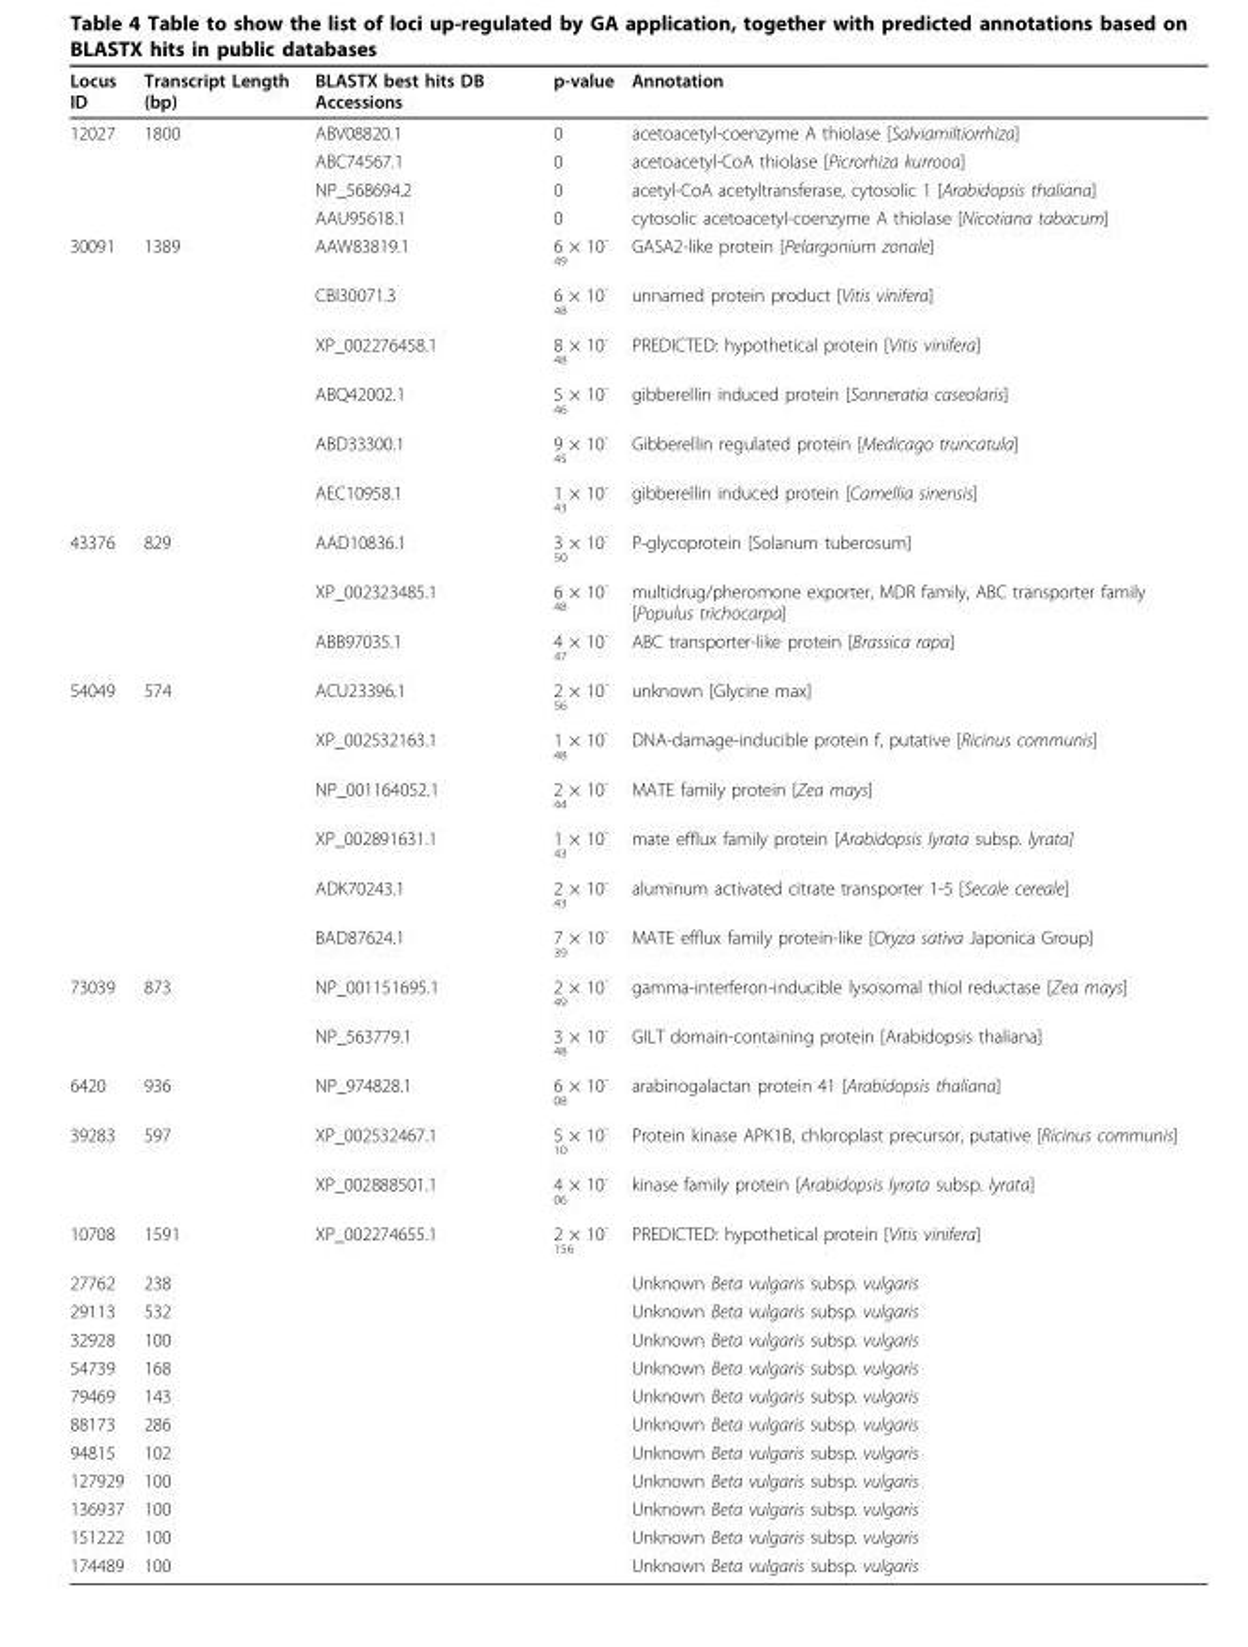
<table><thead><tr><td>Locus ID</td><td>Transcript Length (bp)</td><td>BLASTX best hits DB Accessions</td><td>p-value</td><td>Annotation</td></tr></thead><tbody><tr><td rowspan="4">12027</td><td>1800</td><td>ABV08820.1</td><td>0</td><td>acetoacetyl-coenzyme A thiolase [Salviamiltiorrhiza]</td></tr><tr><td></td><td>ABC74567.1</td><td>0</td><td>acetoacetyl-CoA thiolase [Picrorhiza kurrooa]</td></tr><tr><td></td><td>NP_568694.2</td><td>0</td><td>acetyl-CoA acetyltransferase, cytosolic 1 [Arabidopsis thaliana]</td></tr><tr><td></td><td>AAU95618.1</td><td>0</td><td>cytosolic acetoacetyl-coenzyme A thiolase [Nicotiana tabacum]</td></tr><tr><td rowspan="6">30091</td><td>1389</td><td>AAW83819.1</td><td>6 × 10<sup>- 49</sup></td><td>GASA2-like protein [Pelargonium zonale]</td></tr><tr><td></td><td>CBI30071.3</td><td>6 × 10<sup>- 48</sup></td><td>unnamed protein product [Vitis vinifera]</td></tr><tr><td></td><td>XP_002276458.1</td><td>8 × 10<sup>- 48</sup></td><td>PREDICTED: hypothetical protein [Vitis vinifera]</td></tr><tr><td></td><td>ABQ42002.1</td><td>5 × 10<sup>- 46</sup></td><td>gibberellin induced protein [Sonneratia caseolaris]</td></tr><tr><td></td><td>ABD33300.1</td><td>9 × 10<sup>- 45</sup></td><td>Gibberellin regulated protein [Medicago truncatula]</td></tr><tr><td></td><td>AEC10958.1</td><td>1 × 10<sup>- 43</sup></td><td>gibberellin induced protein [Camellia sinensis]</td></tr><tr><td rowspan="3">43376</td><td>829</td><td>AAD10836.1</td><td>3 × 10<sup>- 50</sup></td><td>P-glycoprotein [Solanum tuberosum]</td></tr><tr><td></td><td>XP_002323485.1</td><td>6 × 10<sup>- 48</sup></td><td>multidrug/pheromone exporter, MDR family, ABC transporter family [Populus trichocarpa]</td></tr><tr><td></td><td>ABB97035.1</td><td>4 × 10<sup>- 47</sup></td><td>ABC transporter-like protein [Brassica rapa]</td></tr><tr><td rowspan="6">54049</td><td>574</td><td>ACU23396.1</td><td>2 × 10<sup>- 56</sup></td><td>unknown [Glycine max]</td></tr><tr><td></td><td>XP_002532163.1</td><td>1 × 10<sup>- 48</sup></td><td>DNA-damage-inducible protein f, putative [Ricinus communis]</td></tr><tr><td></td><td>NP_001164052.1</td><td>2 × 10<sup>- 44</sup></td><td>MATE family protein [Zea mays]</td></tr><tr><td></td><td>XP_002891631.1</td><td>1 × 10<sup>- 43</sup></td><td>mate efflux family protein [Arabidopsis lyrata subsp. lyrata]</td></tr><tr><td></td><td>ADK70243.1</td><td>2 × 10<sup>- 43</sup></td><td>aluminum activated citrate transporter 1-5 [Secale cereale]</td></tr><tr><td></td><td>BAD87624.1</td><td>7 × 10<sup>- 39</sup></td><td>MATE efflux family protein-like [Oryza sativa Japonica Group]</td></tr><tr><td rowspan="2">73039</td><td>873</td><td>NP_001151695.1</td><td>2 × 10<sup>- 49</sup></td><td>gamma-interferon-inducible lysosomal thiol reductase [Zea mays]</td></tr><tr><td></td><td>NP_563779.1</td><td>3 × 10<sup>- 48</sup></td><td>GILT domain-containing protein [Arabidopsis thaliana]</td></tr><tr><td>6420</td><td>936</td><td>NP_974828.1</td><td>6 × 10<sup>- 08</sup></td><td>arabinogalactan protein 41 [Arabidopsis thaliana]</td></tr><tr><td rowspan="2">39283</td><td>597</td><td>XP_002532467.1</td><td>5 × 10<sup>- 10</sup></td><td>Protein kinase APK1B, chloroplast precursor, putative [Ricinus communis]</td></tr><tr><td></td><td>XP_002888501.1</td><td>4 × 10<sup>- 06</sup></td><td>kinase family protein [Arabidopsis lyrata subsp. lyrata]</td></tr><tr><td>10708</td><td>1591</td><td>XP_002274655.1</td><td>2 × 10<sup>- 156</sup></td><td>PREDICTED: hypothetical protein [Vitis vinifera]</td></tr><tr><td>27762</td><td>238</td><td></td><td></td><td>Unknown Beta vulgaris subsp. vulgaris</td></tr><tr><td>29113</td><td>532</td><td></td><td></td><td>Unknown Beta vulgaris subsp. vulgaris</td></tr><tr><td>32928</td><td>100</td><td></td><td></td><td>Unknown Beta vulgaris subsp. vulgaris</td></tr><tr><td>54739</td><td>168</td><td></td><td></td><td>Unknown Beta vulgaris subsp. vulgaris</td></tr><tr><td>79469</td><td>143</td><td></td><td></td><td>Unknown Beta vulgaris subsp. vulgaris</td></tr><tr><td>88173</td><td>286</td><td></td><td></td><td>Unknown Beta vulgaris subsp. vulgaris</td></tr><tr><td>94815</td><td>102</td><td></td><td></td><td>Unknown Beta vulgaris subsp. vulgaris</td></tr><tr><td>127929</td><td>100</td><td></td><td></td><td>Unknown Beta vulgaris subsp. vulgaris</td></tr><tr><td>136937</td><td>100</td><td></td><td></td><td>Unknown Beta vulgaris subsp. vulgaris</td></tr><tr><td>151222</td><td>100</td><td></td><td></td><td>Unknown Beta vulgaris subsp. vulgaris</td></tr><tr><td>174489</td><td>100</td><td></td><td></td><td>Unknown Beta vulgaris subsp. vulgaris</td></tr></tbody></table>